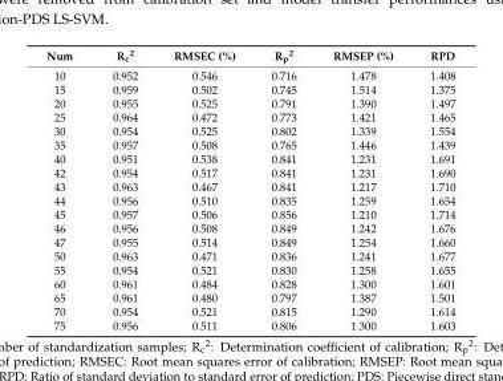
<table><thead><tr><td>Num</td><td>R<sub>c</sub><sup>2</sup></td><td>RMSEC (%)</td><td>R<sub>p</sub><sup>2</sup></td><td>RMSEP (%)</td><td>RPD</td></tr></thead><tbody><tr><td>10</td><td>0.952</td><td>0.546</td><td>0.716</td><td>1.478</td><td>1.408</td></tr><tr><td>15</td><td>0.959</td><td>0.502</td><td>0.745</td><td>1.514</td><td>1.375</td></tr><tr><td>20</td><td>0.955</td><td>0.525</td><td>0.791</td><td>1.390</td><td>1.497</td></tr><tr><td>25</td><td>0.964</td><td>0.472</td><td>0.773</td><td>1.421</td><td>1.465</td></tr><tr><td>30</td><td>0.954</td><td>0.525</td><td>0.802</td><td>1.339</td><td>1.554</td></tr><tr><td>35</td><td>0.957</td><td>0.508</td><td>0.765</td><td>1.446</td><td>1.439</td></tr><tr><td>40</td><td>0.951</td><td>0.538</td><td>0.841</td><td>1.231</td><td>1.691</td></tr><tr><td>42</td><td>0.954</td><td>0.517</td><td>0.841</td><td>1.231</td><td>1.690</td></tr><tr><td>43</td><td>0.963</td><td>0.467</td><td>0.841</td><td>1.217</td><td>1.710</td></tr><tr><td>44</td><td>0.956</td><td>0.510</td><td>0.835</td><td>1.259</td><td>1.654</td></tr><tr><td>45</td><td>0.957</td><td>0.506</td><td>0.856</td><td>1.210</td><td>1.714</td></tr><tr><td>46</td><td>0.956</td><td>0.508</td><td>0.849</td><td>1.242</td><td>1.676</td></tr><tr><td>47</td><td>0.955</td><td>0.514</td><td>0.849</td><td>1.254</td><td>1.660</td></tr><tr><td>50</td><td>0.963</td><td>0.471</td><td>0.836</td><td>1.241</td><td>1.677</td></tr><tr><td>55</td><td>0.954</td><td>0.521</td><td>0.830</td><td>1.258</td><td>1.655</td></tr><tr><td>60</td><td>0.961</td><td>0.484</td><td>0.828</td><td>1.300</td><td>1.601</td></tr><tr><td>65</td><td>0.961</td><td>0.480</td><td>0.797</td><td>1.387</td><td>1.501</td></tr><tr><td>70</td><td>0.954</td><td>0.521</td><td>0.815</td><td>1.290</td><td>1.614</td></tr><tr><td>75</td><td>0.956</td><td>0.511</td><td>0.806</td><td>1.300</td><td>1.603</td></tr></tbody></table>